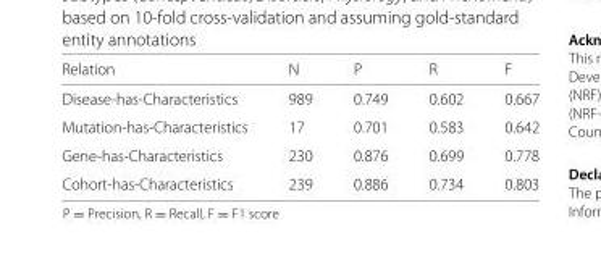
<table><thead><tr><td>Relation</td><td>N</td><td>P</td><td>R</td><td>F</td></tr></thead><tbody><tr><td>Disease-has-Characteristics</td><td>989</td><td>0.749</td><td>0.602</td><td>0.667</td></tr><tr><td>Mutation-has-Characteristics</td><td>17</td><td>0.701</td><td>0.583</td><td>0.642</td></tr><tr><td>Gene-has-Characteristics</td><td>230</td><td>0.876</td><td>0.699</td><td>0.778</td></tr><tr><td>Cohort-has-Characteristics</td><td>239</td><td>0.886</td><td>0.734</td><td>0.803</td></tr></tbody></table>